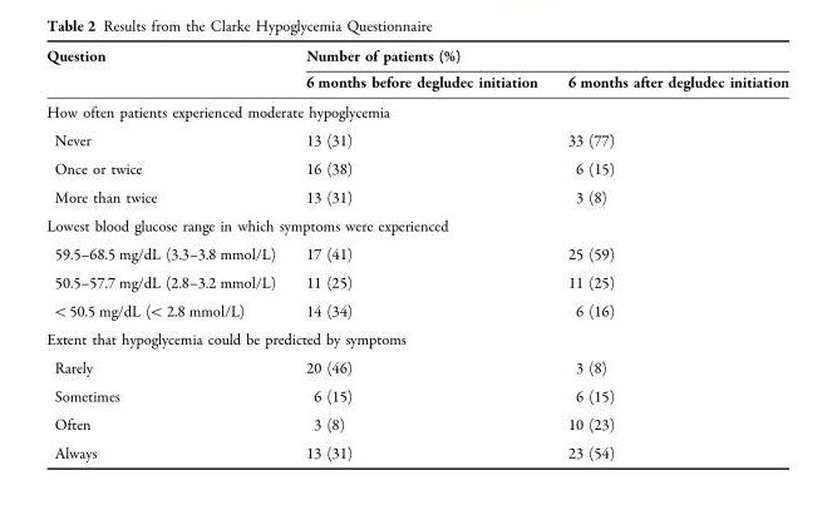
<table><thead><tr><td rowspan="2">Question</td><td colspan="2">Number of patients (%)</td></tr><tr><td>6 months before degludec initiation</td><td>6 months after degludec initiation</td></tr></thead><tbody><tr><td colspan="3">How often patients experienced moderate hypoglycemia</td></tr><tr><td>Never</td><td>13 (31)</td><td>33 (77)</td></tr><tr><td>Once or twice</td><td>16 (38)</td><td>6 (15)</td></tr><tr><td>More than twice</td><td>13 (31)</td><td>3 (8)</td></tr><tr><td colspan="3">Lowest blood glucose range in which symptoms were experienced</td></tr><tr><td>59.5–68.5 mg/dL (3.3–3.8 mmol/L)</td><td>17 (41)</td><td>25 (59)</td></tr><tr><td>50.5–57.7 mg/dL (2.8–3.2 mmol/L)</td><td>11 (25)</td><td>11 (25)</td></tr><tr><td>&lt;50.5 mg/dL (&lt; 2.8 mmol/L)</td><td>14 (34)</td><td>6 (16)</td></tr><tr><td colspan="3">Extent that hypoglycemia could be predicted by symptoms</td></tr><tr><td>Rarely</td><td>20 (46)</td><td>3 (8)</td></tr><tr><td>Sometimes</td><td>6 (15)</td><td>6 (15)</td></tr><tr><td>Often</td><td>3 (8)</td><td>10 (23)</td></tr><tr><td>Always</td><td>13 (31)</td><td>23 (54)</td></tr></tbody></table>